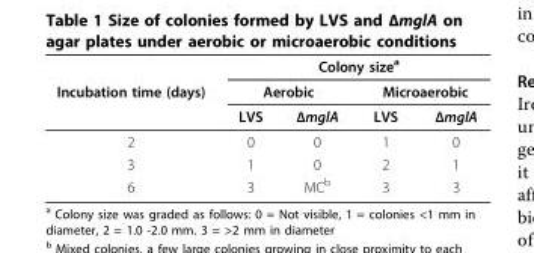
<table><thead><tr><td rowspan="3">Incubation time (days)</td><td colspan="4">Colony size<sup>a</sup></td></tr><tr><td colspan="2">Aerobic</td><td colspan="2">Microaerobic</td></tr><tr><td>LVS</td><td>ΔmglA</td><td>LVS</td><td>ΔmglA</td></tr></thead><tbody><tr><td>2</td><td>0</td><td>0</td><td>1</td><td>0</td></tr><tr><td>3</td><td>1</td><td>0</td><td>2</td><td>1</td></tr><tr><td>6</td><td>3</td><td>MC<sup>b</sup></td><td>3</td><td>3</td></tr></tbody></table>